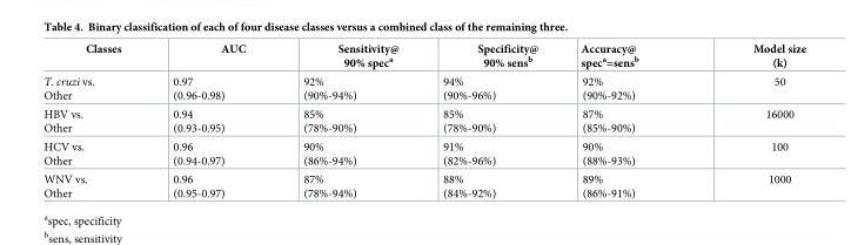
<table><thead><tr><td>Classes</td><td>AUC</td><td>Sensitivity@ 90% spec<sup>a</sup></td><td>Specificity@ 90% sens<sup>b</sup></td><td>Accuracy@ spec<sup>a</sup>=sens<sup>b</sup></td><td>Model size (k)</td></tr></thead><tbody><tr><td>T. cruzi vs. Other</td><td>0.97 (0.96-0.98)</td><td>92% (90%-94%)</td><td>94% (90%-96%)</td><td>92% (90%-92%)</td><td>50</td></tr><tr><td>HBV vs. Other</td><td>0.94 (0.93-0.95)</td><td>85% (78%-90%)</td><td>85% (78%-90%)</td><td>87% (85%-90%)</td><td>16000</td></tr><tr><td>HCV vs. Other</td><td>0.96 (0.94-0.97)</td><td>90% (86%-94%)</td><td>91% (82%-96%)</td><td>90% (88%-93%)</td><td>100</td></tr><tr><td>WNV vs. Other</td><td>0.96 (0.95-0.97)</td><td>87% (78%-94%)</td><td>88% (84%-92%)</td><td>89% (86%-91%)</td><td>1000</td></tr></tbody></table>